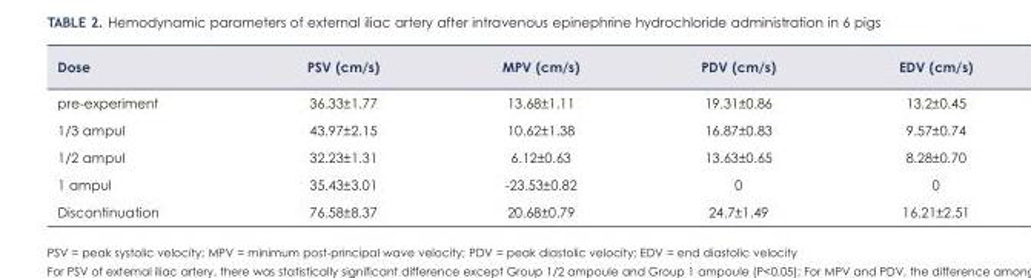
<table><thead><tr><td>Dose</td><td>PSV (cm/s)</td><td>MPV (cm/s)</td><td>PDV (cm/s)</td><td>EDV (cm/s)</td></tr></thead><tbody><tr><td>pre-experiment</td><td>36.33±1.77</td><td>13.68±1.11</td><td>19.31±0.86</td><td>13.2±0.45</td></tr><tr><td>1/3 ampul</td><td>43.97±2.15</td><td>10.62±1.38</td><td>16.87±0.83</td><td>9.57±0.74</td></tr><tr><td>1/2 ampul</td><td>32.23±1.31</td><td>6.12±0.63</td><td>13.63±0.65</td><td>8.28±0.70</td></tr><tr><td>1 ampul</td><td>35.43±3.01</td><td>-23.53±0.82</td><td>0</td><td>0</td></tr><tr><td>Discontinuation</td><td>76.58±8.37</td><td>20.68±0.79</td><td>24.7±1.49</td><td>16.21±2.51</td></tr></tbody></table>